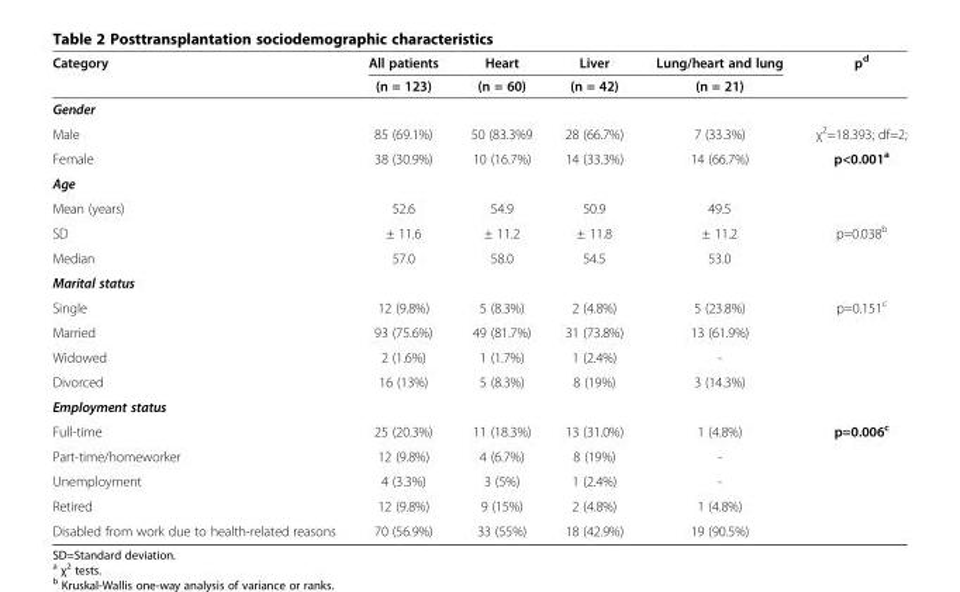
<table><thead><tr><td rowspan="2">Category</td><td rowspan="2">All patients (n = 123)</td><td rowspan="2">Heart (n = 60)</td><td rowspan="2">Liver (n = 42)</td><td rowspan="2">Lung/heart and lung (n = 21)</td><td rowspan="2">p<sup>d</sup></td></tr><tr></tr></thead><tbody><tr><td colspan="6">Gender</td></tr><tr><td>Male</td><td>85 (69.1%)</td><td>50 (83.3%9</td><td>28 (66.7%)</td><td>7 (33.3%)</td><td>χ<sup>2</sup>=18.393; df=2;</td></tr><tr><td>Female</td><td>38 (30.9%)</td><td>10 (16.7%)</td><td>14 (33.3%)</td><td>14 (66.7%)</td><td>p&lt;0.001<sup>a</sup></td></tr><tr><td colspan="6">Age</td></tr><tr><td>Mean (years)</td><td>52.6</td><td>54.9</td><td>50.9</td><td>49.5</td><td></td></tr><tr><td>SD</td><td>± 11.6</td><td>± 11.2</td><td>± 11.8</td><td>± 11.2</td><td>p=0.038<sup>b</sup></td></tr><tr><td>Median</td><td>57.0</td><td>58.0</td><td>54.5</td><td>53.0</td><td></td></tr><tr><td colspan="6">Marital status</td></tr><tr><td>Single</td><td>12 (9.8%)</td><td>5 (8.3%)</td><td>2 (4.8%)</td><td>5 (23.8%)</td><td>p=0.151<sup>c</sup></td></tr><tr><td>Married</td><td>93 (75.6%)</td><td>49 (81.7%)</td><td>31 (73.8%)</td><td>13 (61.9%)</td><td rowspan="3"></td></tr><tr><td>Widowed</td><td>2 (1.6%)</td><td>1 (1.7%)</td><td>1 (2.4%)</td><td>-</td></tr><tr><td>Divorced</td><td>16 (13%)</td><td>5 (8.3%)</td><td>8 (19%)</td><td>3 (14.3%)</td></tr><tr><td colspan="6">Employment status</td></tr><tr><td>Full-time</td><td>25 (20.3%)</td><td>11 (18.3%)</td><td>13 (31.0%)</td><td>1 (4.8%)</td><td>p=0.006<sup>c</sup></td></tr><tr><td>Part-time/homeworker</td><td>12 (9.8%)</td><td>4 (6.7%)</td><td>8 (19%)</td><td>-</td><td rowspan="4"></td></tr><tr><td>Unemployment</td><td>4 (3.3%)</td><td>3 (5%)</td><td>1 (2.4%)</td><td>-</td></tr><tr><td>Retired</td><td>12 (9.8%)</td><td>9 (15%)</td><td>2 (4.8%)</td><td>1 (4.8%)</td></tr><tr><td>Disabled from work due to health-related reasons</td><td>70 (56.9%)</td><td>33 (55%)</td><td>18 (42.9%)</td><td>19 (90.5%)</td></tr></tbody></table>